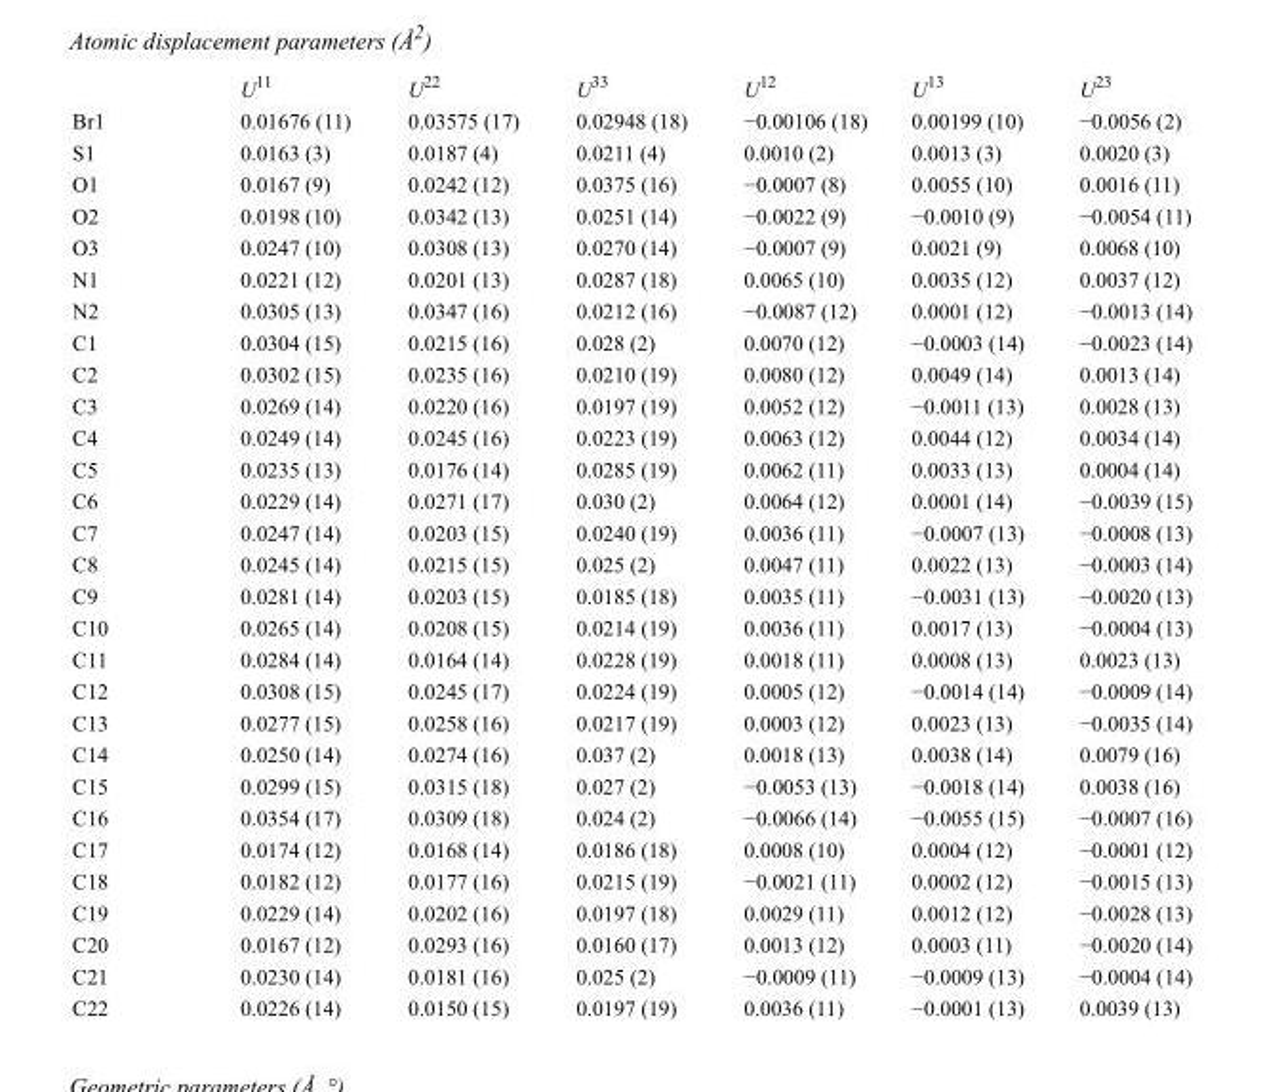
<table><thead><tr><td></td><td>U<sup>11</sup></td><td>U<sup>22</sup></td><td>U<sup>33</sup></td><td>U<sup>12</sup></td><td>U<sup>13</sup></td><td>U<sup>23</sup></td></tr></thead><tbody><tr><td>Br1</td><td>0.01676 (11)</td><td>0.03575 (17)</td><td>0.02948 (18)</td><td>−0.00106 (18)</td><td>0.00199 (10)</td><td>−0.0056 (2)</td></tr><tr><td>S1</td><td>0.0163 (3)</td><td>0.0187 (4)</td><td>0.0211 (4)</td><td>0.0010 (2)</td><td>0.0013 (3)</td><td>0.0020 (3)</td></tr><tr><td>O1</td><td>0.0167 (9)</td><td>0.0242 (12)</td><td>0.0375 (16)</td><td>−0.0007 (8)</td><td>0.0055 (10)</td><td>0.0016 (11)</td></tr><tr><td>O2</td><td>0.0198 (10)</td><td>0.0342 (13)</td><td>0.0251 (14)</td><td>−0.0022 (9)</td><td>−0.0010 (9)</td><td>−0.0054 (11)</td></tr><tr><td>O3</td><td>0.0247 (10)</td><td>0.0308 (13)</td><td>0.0270 (14)</td><td>−0.0007 (9)</td><td>0.0021 (9)</td><td>0.0068 (10)</td></tr><tr><td>N1</td><td>0.0221 (12)</td><td>0.0201 (13)</td><td>0.0287 (18)</td><td>0.0065 (10)</td><td>0.0035 (12)</td><td>0.0037 (12)</td></tr><tr><td>N2</td><td>0.0305 (13)</td><td>0.0347 (16)</td><td>0.0212 (16)</td><td>−0.0087 (12)</td><td>0.0001 (12)</td><td>−0.0013 (14)</td></tr><tr><td>C1</td><td>0.0304 (15)</td><td>0.0215 (16)</td><td>0.028 (2)</td><td>0.0070 (12)</td><td>−0.0003 (14)</td><td>−0.0023 (14)</td></tr><tr><td>C2</td><td>0.0302 (15)</td><td>0.0235 (16)</td><td>0.0210 (19)</td><td>0.0080 (12)</td><td>0.0049 (14)</td><td>0.0013 (14)</td></tr><tr><td>C3</td><td>0.0269 (14)</td><td>0.0220 (16)</td><td>0.0197 (19)</td><td>0.0052 (12)</td><td>−0.0011 (13)</td><td>0.0028 (13)</td></tr><tr><td>C4</td><td>0.0249 (14)</td><td>0.0245 (16)</td><td>0.0223 (19)</td><td>0.0063 (12)</td><td>0.0044 (12)</td><td>0.0034 (14)</td></tr><tr><td>C5</td><td>0.0235 (13)</td><td>0.0176 (14)</td><td>0.0285 (19)</td><td>0.0062 (11)</td><td>0.0033 (13)</td><td>0.0004 (14)</td></tr><tr><td>C6</td><td>0.0229 (14)</td><td>0.0271 (17)</td><td>0.030 (2)</td><td>0.0064 (12)</td><td>0.0001 (14)</td><td>−0.0039 (15)</td></tr><tr><td>C7</td><td>0.0247 (14)</td><td>0.0203 (15)</td><td>0.0240 (19)</td><td>0.0036 (11)</td><td>−0.0007 (13)</td><td>−0.0008 (13)</td></tr><tr><td>C8</td><td>0.0245 (14)</td><td>0.0215 (15)</td><td>0.025 (2)</td><td>0.0047 (11)</td><td>0.0022 (13)</td><td>−0.0003 (14)</td></tr><tr><td>C9</td><td>0.0281 (14)</td><td>0.0203 (15)</td><td>0.0185 (18)</td><td>0.0035 (11)</td><td>−0.0031 (13)</td><td>−0.0020 (13)</td></tr><tr><td>C10</td><td>0.0265 (14)</td><td>0.0208 (15)</td><td>0.0214 (19)</td><td>0.0036 (11)</td><td>0.0017 (13)</td><td>−0.0004 (13)</td></tr><tr><td>C11</td><td>0.0284 (14)</td><td>0.0164 (14)</td><td>0.0228 (19)</td><td>0.0018 (11)</td><td>0.0008 (13)</td><td>0.0023 (13)</td></tr><tr><td>C12</td><td>0.0308 (15)</td><td>0.0245 (17)</td><td>0.0224 (19)</td><td>0.0005 (12)</td><td>−0.0014 (14)</td><td>−0.0009 (14)</td></tr><tr><td>C13</td><td>0.0277 (15)</td><td>0.0258 (16)</td><td>0.0217 (19)</td><td>0.0003 (12)</td><td>0.0023 (13)</td><td>−0.0035 (14)</td></tr><tr><td>C14</td><td>0.0250 (14)</td><td>0.0274 (16)</td><td>0.037 (2)</td><td>0.0018 (13)</td><td>0.0038 (14)</td><td>0.0079 (16)</td></tr><tr><td>C15</td><td>0.0299 (15)</td><td>0.0315 (18)</td><td>0.027 (2)</td><td>−0.0053 (13)</td><td>−0.0018 (14)</td><td>0.0038 (16)</td></tr><tr><td>C16</td><td>0.0354 (17)</td><td>0.0309 (18)</td><td>0.024 (2)</td><td>−0.0066 (14)</td><td>−0.0055 (15)</td><td>−0.0007 (16)</td></tr><tr><td>C17</td><td>0.0174 (12)</td><td>0.0168 (14)</td><td>0.0186 (18)</td><td>0.0008 (10)</td><td>0.0004 (12)</td><td>−0.0001 (12)</td></tr><tr><td>C18</td><td>0.0182 (12)</td><td>0.0177 (16)</td><td>0.0215 (19)</td><td>−0.0021 (11)</td><td>0.0002 (12)</td><td>−0.0015 (13)</td></tr><tr><td>C19</td><td>0.0229 (14)</td><td>0.0202 (16)</td><td>0.0197 (18)</td><td>0.0029 (11)</td><td>0.0012 (12)</td><td>−0.0028 (13)</td></tr><tr><td>C20</td><td>0.0167 (12)</td><td>0.0293 (16)</td><td>0.0160 (17)</td><td>0.0013 (12)</td><td>0.0003 (11)</td><td>−0.0020 (14)</td></tr><tr><td>C21</td><td>0.0230 (14)</td><td>0.0181 (16)</td><td>0.025 (2)</td><td>−0.0009 (11)</td><td>−0.0009 (13)</td><td>−0.0004 (14)</td></tr><tr><td>C22</td><td>0.0226 (14)</td><td>0.0150 (15)</td><td>0.0197 (19)</td><td>0.0036 (11)</td><td>−0.0001 (13)</td><td>0.0039 (13)</td></tr></tbody></table>